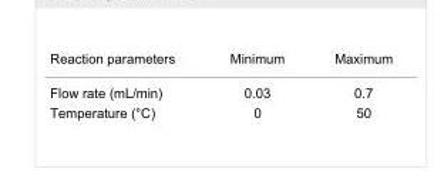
<table><tbody><tr><td>Reaction parameters</td><td>Minimum</td><td>Maximum</td></tr><tr><td>Flow rate (mL/min)</td><td>0.03</td><td>0.7</td></tr><tr><td>Temperature (°C)</td><td>0</td><td>50</td></tr></tbody></table>